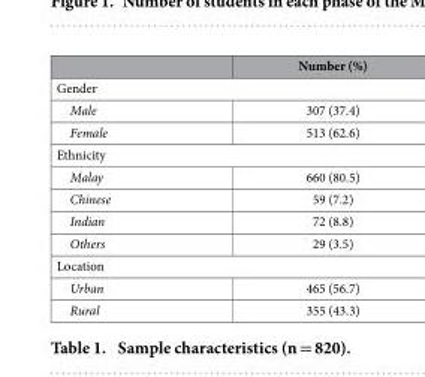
<table><thead><tr><td></td><td>Number (%)</td></tr></thead><tbody><tr><td colspan="2">Gender</td></tr><tr><td>Male</td><td>307 (37.4)</td></tr><tr><td>Female</td><td>513 (62.6)</td></tr><tr><td colspan="2">Ethnicity</td></tr><tr><td>Malay</td><td>660 (80.5)</td></tr><tr><td>Chinese</td><td>59 (7.2)</td></tr><tr><td>Indian</td><td>72 (8.8)</td></tr><tr><td>Others</td><td>29 (3.5)</td></tr><tr><td colspan="2">Location</td></tr><tr><td>Urban</td><td>465 (56.7)</td></tr><tr><td>Rural</td><td>355 (43.3)</td></tr></tbody></table>